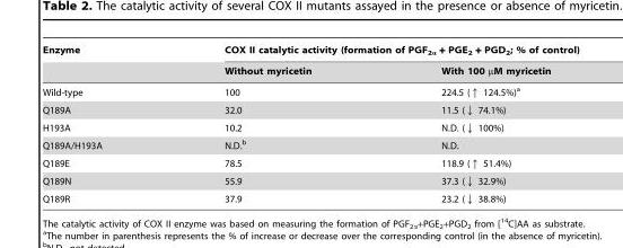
<table><thead><tr><td rowspan="2">Enzyme</td><td colspan="2">COX II catalytic activity (formation of PGF<sub>2α</sub> + PGE<sub>2</sub> + PGD<sub>2</sub>; % of control)</td></tr><tr><td>Without myricetin</td><td>With 100 µM myricetin</td></tr></thead><tbody><tr><td>Wild-type</td><td>100</td><td>224.5 (↑ 124.5%)<sup>a</sup></td></tr><tr><td>Q189A</td><td>32.0</td><td>11.5 (↓ 74.1%)</td></tr><tr><td>H193A</td><td>10.2</td><td>N.D. (↓ 100%)</td></tr><tr><td>Q189A/H193A</td><td>N.D.<sup>b</sup></td><td>N.D.</td></tr><tr><td>Q189E</td><td>78.5</td><td>118.9 (↑ 51.4%)</td></tr><tr><td>Q189N</td><td>55.9</td><td>37.3 (↓ 32.9%)</td></tr><tr><td>Q189R</td><td>37.9</td><td>23.2 (↓ 38.8%)</td></tr></tbody></table>